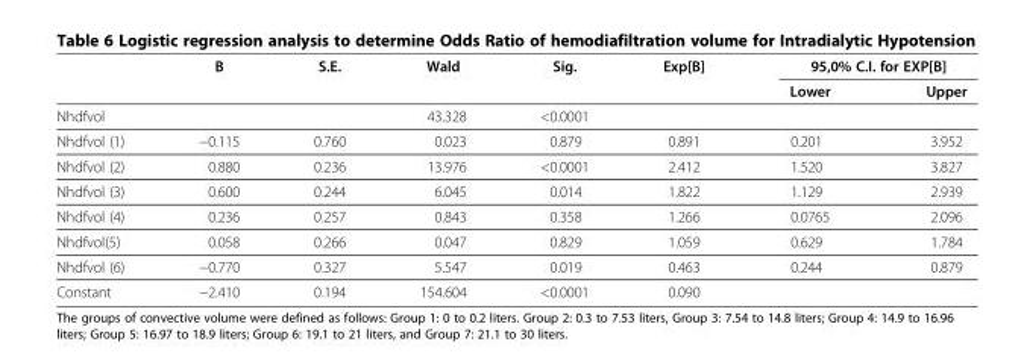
<table><thead><tr><td rowspan="2"></td><td rowspan="2">B</td><td rowspan="2">S.E.</td><td rowspan="2">Wald</td><td rowspan="2">Sig.</td><td rowspan="2">Exp[B]</td><td colspan="2">95,0% C.I. for EXP[B]</td></tr><tr><td>Lower</td><td>Upper</td></tr></thead><tbody><tr><td>Nhdfvol</td><td></td><td></td><td>43.328</td><td>&lt;0.0001</td><td></td><td></td><td></td></tr><tr><td>Nhdfvol (1)</td><td>−0.115</td><td>0.760</td><td>0.023</td><td>0.879</td><td>0.891</td><td>0.201</td><td>3.952</td></tr><tr><td>Nhdfvol (2)</td><td>0.880</td><td>0.236</td><td>13.976</td><td>&lt;0.0001</td><td>2.412</td><td>1.520</td><td>3.827</td></tr><tr><td>Nhdfvol (3)</td><td>0.600</td><td>0.244</td><td>6.045</td><td>0.014</td><td>1.822</td><td>1.129</td><td>2.939</td></tr><tr><td>Nhdfvol (4)</td><td>0.236</td><td>0.257</td><td>0.843</td><td>0.358</td><td>1.266</td><td>0.0765</td><td>2.096</td></tr><tr><td>Nhdfvol(5)</td><td>0.058</td><td>0.266</td><td>0.047</td><td>0.829</td><td>1.059</td><td>0.629</td><td>1.784</td></tr><tr><td>Nhdfvol (6)</td><td>−0.770</td><td>0.327</td><td>5.547</td><td>0.019</td><td>0.463</td><td>0.244</td><td>0.879</td></tr><tr><td>Constant</td><td>−2.410</td><td>0.194</td><td>154.604</td><td>&lt;0.0001</td><td>0.090</td><td></td><td></td></tr></tbody></table>